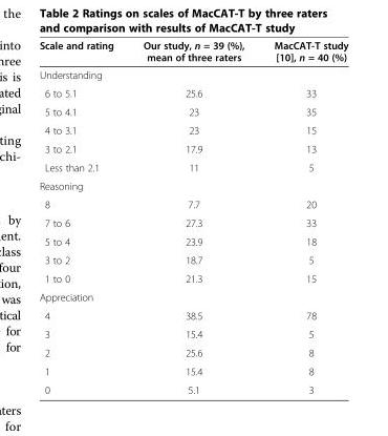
<table><thead><tr><td>Scale and rating</td><td>Our study, n = 39 (%), mean of three raters</td><td>MacCAT-T study [10], n = 40 (%)</td></tr></thead><tbody><tr><td colspan="3">Understanding</td></tr><tr><td>6 to 5.1</td><td>25.6</td><td>33</td></tr><tr><td>5 to 4.1</td><td>23</td><td>35</td></tr><tr><td>4 to 3.1</td><td>23</td><td>15</td></tr><tr><td>3 to 2.1</td><td>17.9</td><td>13</td></tr><tr><td>Less than 2.1</td><td>11</td><td>5</td></tr><tr><td colspan="3">Reasoning</td></tr><tr><td>8</td><td>7.7</td><td>20</td></tr><tr><td>7 to 6</td><td>27.3</td><td>33</td></tr><tr><td>5 to 4</td><td>23.9</td><td>18</td></tr><tr><td>3 to 2</td><td>18.7</td><td>5</td></tr><tr><td>1 to 0</td><td>21.3</td><td>15</td></tr><tr><td colspan="3">Appreciation</td></tr><tr><td>4</td><td>38.5</td><td>78</td></tr><tr><td>3</td><td>15.4</td><td>5</td></tr><tr><td>2</td><td>25.6</td><td>8</td></tr><tr><td>1</td><td>15.4</td><td>8</td></tr><tr><td>0</td><td>5.1</td><td>3</td></tr></tbody></table>